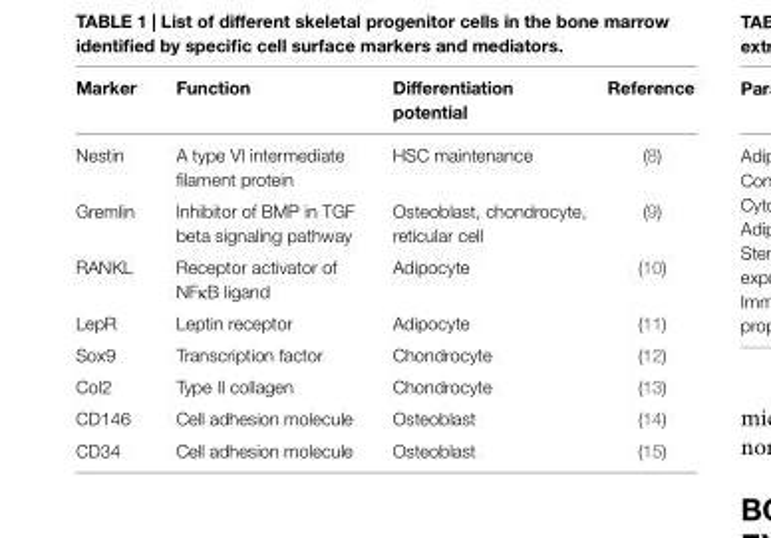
<table><thead><tr><td>Marker</td><td>Function</td><td>Differentiation potential</td><td>Reference</td></tr></thead><tbody><tr><td>Nestin</td><td>A type VI intermediate filament protein</td><td>HSC maintenance</td><td>(8)</td></tr><tr><td>Gremlin</td><td>Inhibitor of BMP in TGF beta signaling pathway</td><td>Osteoblast, chondrocyte, reticular cell</td><td>(9)</td></tr><tr><td>RANKL</td><td>Receptor activator of NFκB ligand</td><td>Adipocyte</td><td>(10)</td></tr><tr><td>LepR</td><td>Leptin receptor</td><td>Adipocyte</td><td>(11)</td></tr><tr><td>Sox9</td><td>Transcription factor</td><td>Chondrocyte</td><td>(12)</td></tr><tr><td>Col2</td><td>Type II collagen</td><td>Chondrocyte</td><td>(13)</td></tr><tr><td>CD146</td><td>Cell adhesion molecule</td><td>Osteoblast</td><td>(14)</td></tr><tr><td>CD34</td><td>Cell adhesion molecule</td><td>Osteoblast</td><td>(15)</td></tr></tbody></table>